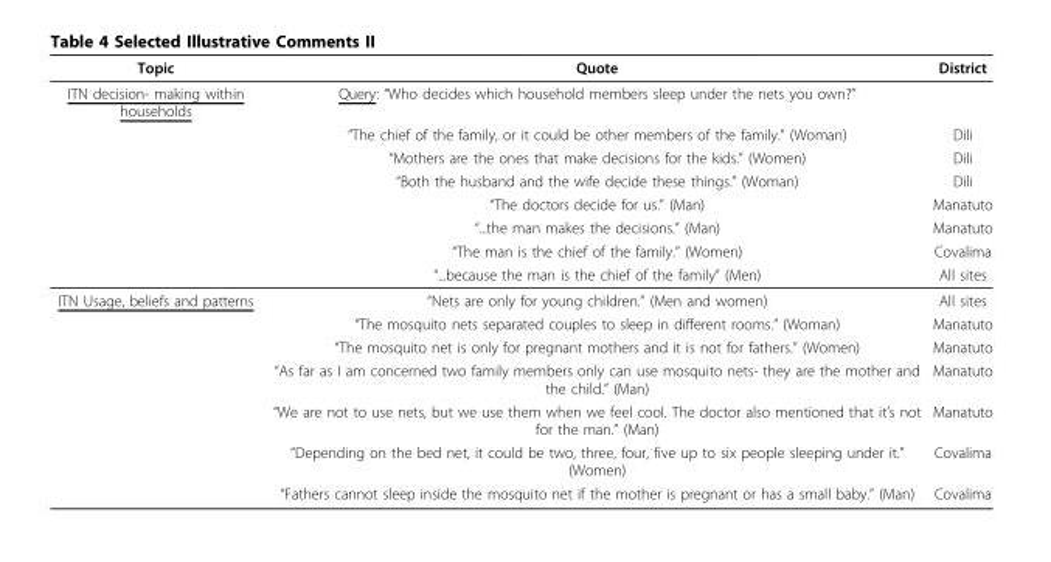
<table><thead><tr><td>Topic</td><td>Quote</td><td>District</td></tr></thead><tbody><tr><td rowspan="8">ITN decision- making within households</td><td>Query: “Who decides which household members sleep under the nets you own?”</td><td></td></tr><tr><td>“The chief of the family, or it could be other members of the family.” (Woman)</td><td>Dili</td></tr><tr><td>“Mothers are the ones that make decisions for the kids.” (Women)</td><td>Dili</td></tr><tr><td>“Both the husband and the wife decide these things.” (Woman)</td><td>Dili</td></tr><tr><td>“The doctors decide for us.” (Man)</td><td>Manatuto</td></tr><tr><td>“...the man makes the decisions.” (Man)</td><td>Manatuto</td></tr><tr><td>“The man is the chief of the family.” (Women)</td><td>Covalima</td></tr><tr><td>“...because the man is the chief of the family” (Men)</td><td>All sites</td></tr><tr><td rowspan="7">ITN Usage, beliefs and patterns</td><td>“Nets are only for young children.” (Men and women)</td><td>All sites</td></tr><tr><td>“The mosquito nets separated couples to sleep in different rooms.” (Woman)</td><td>Manatuto</td></tr><tr><td>“The mosquito net is only for pregnant mothers and it is not for fathers.” (Women)</td><td>Manatuto</td></tr><tr><td>“As far as I am concerned two family members only can use mosquito nets- they are the mother and the child.” (Man)</td><td>Manatuto</td></tr><tr><td>“We are not to use nets, but we use them when we feel cool. The doctor also mentioned that it’s not for the man.” (Man)</td><td>Manatuto</td></tr><tr><td>“Depending on the bed net, it could be two, three, four, five up to six people sleeping under it.” (Women)</td><td>Covalima</td></tr><tr><td>“Fathers cannot sleep inside the mosquito net if the mother is pregnant or has a small baby.” (Man)</td><td>Covalima</td></tr></tbody></table>